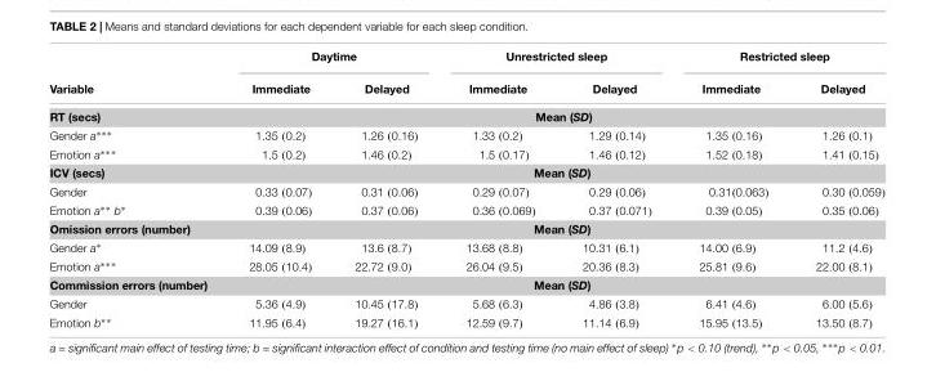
<table><thead><tr><td rowspan="2">Variable</td><td colspan="2">Daytime</td><td colspan="2">Unrestricted sleep</td><td colspan="2">Restricted sleep</td></tr><tr><td>Immediate</td><td>Delayed</td><td>Immediate</td><td>Delayed</td><td>Immediate</td><td>Delayed</td></tr></thead><tbody><tr><td>RT (secs)</td><td colspan="6">Mean (SD)</td></tr><tr><td>Gender a∗∗∗</td><td>1.35 (0.2)</td><td>1.26 (0.16)</td><td>1.33 (0.2)</td><td>1.29 (0.14)</td><td>1.35 (0.16)</td><td>1.26 (0.1)</td></tr><tr><td>Emotion a∗∗∗</td><td>1.5 (0.2)</td><td>1.46 (0.2)</td><td>1.5 (0.17)</td><td>1.46 (0.12)</td><td>1.52 (0.18)</td><td>1.41 (0.15)</td></tr><tr><td>ICV (secs)</td><td colspan="6">Mean (SD)</td></tr><tr><td>Gender</td><td>0.33 (0.07)</td><td>0.31 (0.06)</td><td>0.29 (0.07)</td><td>0.29 (0.06)</td><td>0.31(0.063)</td><td>0.30 (0.059)</td></tr><tr><td>Emotion a∗∗ b∗</td><td>0.39 (0.06)</td><td>0.37 (0.06)</td><td>0.36 (0.069)</td><td>0.37 (0.071)</td><td>0.39 (0.05)</td><td>0.35 (0.06)</td></tr><tr><td>Omission errors (number)</td><td colspan="6">Mean (SD)</td></tr><tr><td>Gender a∗</td><td>14.09 (8.9)</td><td>13.6 (8.7)</td><td>13.68 (8.8)</td><td>10.31 (6.1)</td><td>14.00 (6.9)</td><td>11.2 (4.6)</td></tr><tr><td>Emotion a∗∗∗</td><td>28.05 (10.4)</td><td>22.72 (9.0)</td><td>26.04 (9.5)</td><td>20.36 (8.3)</td><td>25.81 (9.6)</td><td>22.00 (8.1)</td></tr><tr><td>Commission errors (number)</td><td colspan="6">Mean (SD)</td></tr><tr><td>Gender</td><td>5.36 (4.9)</td><td>10.45 (17.8)</td><td>5.68 (6.3)</td><td>4.86 (3.8)</td><td>6.41 (4.6)</td><td>6.00 (5.6)</td></tr><tr><td>Emotion b∗∗</td><td>11.95 (6.4)</td><td>19.27 (16.1)</td><td>12.59 (9.7)</td><td>11.14 (6.9)</td><td>15.95 (13.5)</td><td>13.50 (8.7)</td></tr></tbody></table>